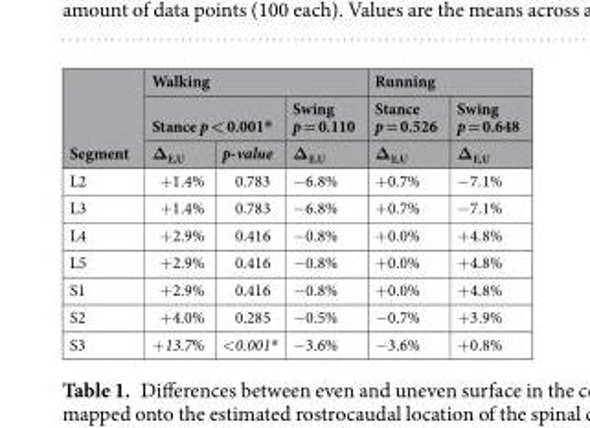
<table><thead><tr><td rowspan="3">Segment</td><td colspan="3">Walking</td><td colspan="2">Running</td></tr><tr><td colspan="2">Stance p &lt; 0.001*</td><td rowspan="2">Swing p = 0.110 Δ<sub>E,U</sub></td><td rowspan="2">Stance p = 0.526 Δ<sub>E,U</sub></td><td rowspan="2">Swing p = 0.648 Δ<sub>E,U</sub></td></tr><tr><td>Δ<sub>E,U</sub></td><td>p-value</td></tr></thead><tbody><tr><td>L2</td><td>+1.4%</td><td>0.783</td><td>−6.8%</td><td>+0.7%</td><td>−7.1%</td></tr><tr><td>L3</td><td>+1.4%</td><td>0.783</td><td>−6.8%</td><td>+0.7%</td><td>−7.1%</td></tr><tr><td>L4</td><td>+2.9%</td><td>0.416</td><td>−0.8%</td><td>+0.0%</td><td>+4.8%</td></tr><tr><td>L5</td><td>+2.9%</td><td>0.416</td><td>−0.8%</td><td>+0.0%</td><td>+4.8%</td></tr><tr><td>S1</td><td>+2.9%</td><td>0.416</td><td>−0.8%</td><td>+0.0%</td><td>+4.8%</td></tr><tr><td>S2</td><td>+4.0%</td><td>0.285</td><td>−0.5%</td><td>−0.7%</td><td>+3.9%</td></tr><tr><td>S3</td><td>+13.7%</td><td>&lt;0.001*</td><td>−3.6%</td><td>−3.6%</td><td>+0.8%</td></tr></tbody></table>